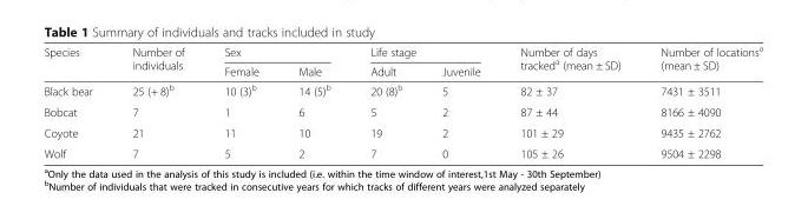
<table><thead><tr><td rowspan="2">Species</td><td rowspan="2">Number of individuals</td><td colspan="2">Sex</td><td colspan="2">Life stage</td><td rowspan="2">Number of days tracked<sup>a</sup> (mean ± SD)</td><td rowspan="2">Number of locations<sup>a</sup> (mean ± SD)</td></tr><tr><td>Female</td><td>Male</td><td>Adult</td><td>Juvenile</td></tr></thead><tbody><tr><td>Black bear</td><td>25 (+ 8)<sup>b</sup></td><td>10 (3)<sup>b</sup></td><td>14 (5)<sup>b</sup></td><td>20 (8)<sup>b</sup></td><td>5</td><td>82 ± 37</td><td>7431 ± 3511</td></tr><tr><td>Bobcat</td><td>7</td><td>1</td><td>6</td><td>5</td><td>2</td><td>87 ± 44</td><td>8166 ± 4090</td></tr><tr><td>Coyote</td><td>21</td><td>11</td><td>10</td><td>19</td><td>2</td><td>101 ± 29</td><td>9435 ± 2762</td></tr><tr><td>Wolf</td><td>7</td><td>5</td><td>2</td><td>7</td><td>0</td><td>105 ± 26</td><td>9504 ± 2298</td></tr></tbody></table>